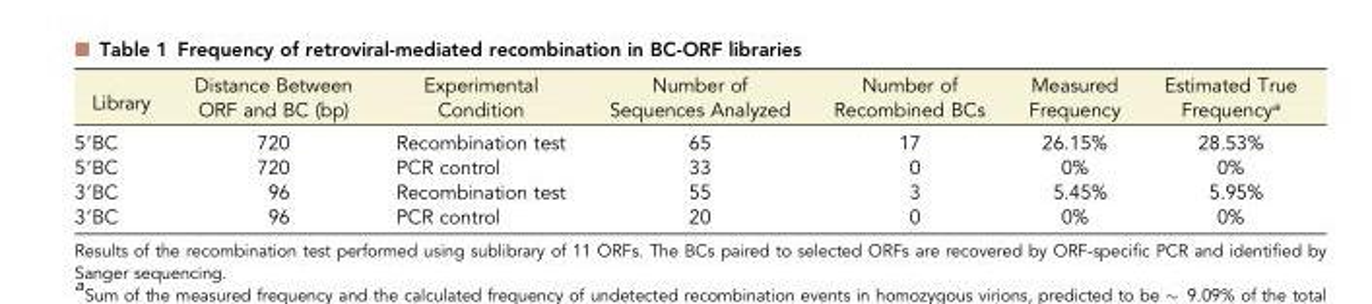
<table><thead><tr><td>Library</td><td>Distance Between ORF and BC (bp)</td><td>Experimental Condition</td><td>Number of Sequences Analyzed</td><td>Number of Recombined BCs</td><td>Measured Frequency</td><td>Estimated True Frequency<sup>a</sup></td></tr></thead><tbody><tr><td>5′BC</td><td>720</td><td>Recombination test</td><td>65</td><td>17</td><td>26.15%</td><td>28.53%</td></tr><tr><td>5′BC</td><td>720</td><td>PCR control</td><td>33</td><td>0</td><td>0%</td><td>0%</td></tr><tr><td>3′BC</td><td>96</td><td>Recombination test</td><td>55</td><td>3</td><td>5.45%</td><td>5.95%</td></tr><tr><td>3′BC</td><td>96</td><td>PCR control</td><td>20</td><td>0</td><td>0%</td><td>0%</td></tr></tbody></table>